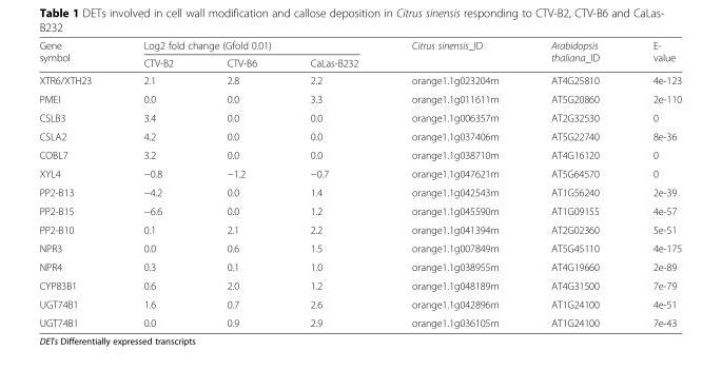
<table><thead><tr><td rowspan="2">Gene symbol</td><td colspan="3">Log2 fold change (Gfold 0.01)</td><td rowspan="2">Citrus sinensis_ID</td><td rowspan="2">Arabidopsis thaliana_ID</td><td rowspan="2">E- value</td></tr><tr><td>CTV-B2</td><td>CTV-B6</td><td>CaLas-B232</td></tr></thead><tbody><tr><td>XTR6/XTH23</td><td>2.1</td><td>2.8</td><td>2.2</td><td>orange1.1g023204m</td><td>AT4G25810</td><td>4e-123</td></tr><tr><td>PMEI</td><td>0.0</td><td>0.0</td><td>3.3</td><td>orange1.1g011611m</td><td>AT5G20860</td><td>2e-110</td></tr><tr><td>CSLB3</td><td>3.4</td><td>0.0</td><td>0.0</td><td>orange1.1g006357m</td><td>AT2G32530</td><td>0</td></tr><tr><td>CSLA2</td><td>4.2</td><td>0.0</td><td>0.0</td><td>orange1.1g037406m</td><td>AT5G22740</td><td>8e-36</td></tr><tr><td>COBL7</td><td>3.2</td><td>0.0</td><td>0.0</td><td>orange1.1g038710m</td><td>AT4G16120</td><td>0</td></tr><tr><td>XYL4</td><td>−0.8</td><td>−1.2</td><td>−0.7</td><td>orange1.1g047621m</td><td>AT5G64570</td><td>0</td></tr><tr><td>PP2-B13</td><td>−4.2</td><td>0.0</td><td>1.4</td><td>orange1.1g042543m</td><td>AT1G56240</td><td>2e-39</td></tr><tr><td>PP2-B15</td><td>−6.6</td><td>0.0</td><td>1.2</td><td>orange1.1g045590m</td><td>AT1G09155</td><td>4e-57</td></tr><tr><td>PP2-B10</td><td>0.1</td><td>2.1</td><td>2.2</td><td>orange1.1g041394m</td><td>AT2G02360</td><td>5e-51</td></tr><tr><td>NPR3</td><td>0.0</td><td>0.6</td><td>1.5</td><td>orange1.1g007849m</td><td>AT5G45110</td><td>4e-175</td></tr><tr><td>NPR4</td><td>0.3</td><td>0.1</td><td>1.0</td><td>orange1.1g038955m</td><td>AT4G19660</td><td>2e-89</td></tr><tr><td>CYP83B1</td><td>0.6</td><td>2.0</td><td>1.2</td><td>orange1.1g048189m</td><td>AT4G31500</td><td>7e-79</td></tr><tr><td>UGT74B1</td><td>1.6</td><td>0.7</td><td>2.6</td><td>orange1.1g042896m</td><td>AT1G24100</td><td>4e-51</td></tr><tr><td>UGT74B1</td><td>0.0</td><td>0.9</td><td>2.9</td><td>orange1.1g036105m</td><td>AT1G24100</td><td>7e-43</td></tr></tbody></table>